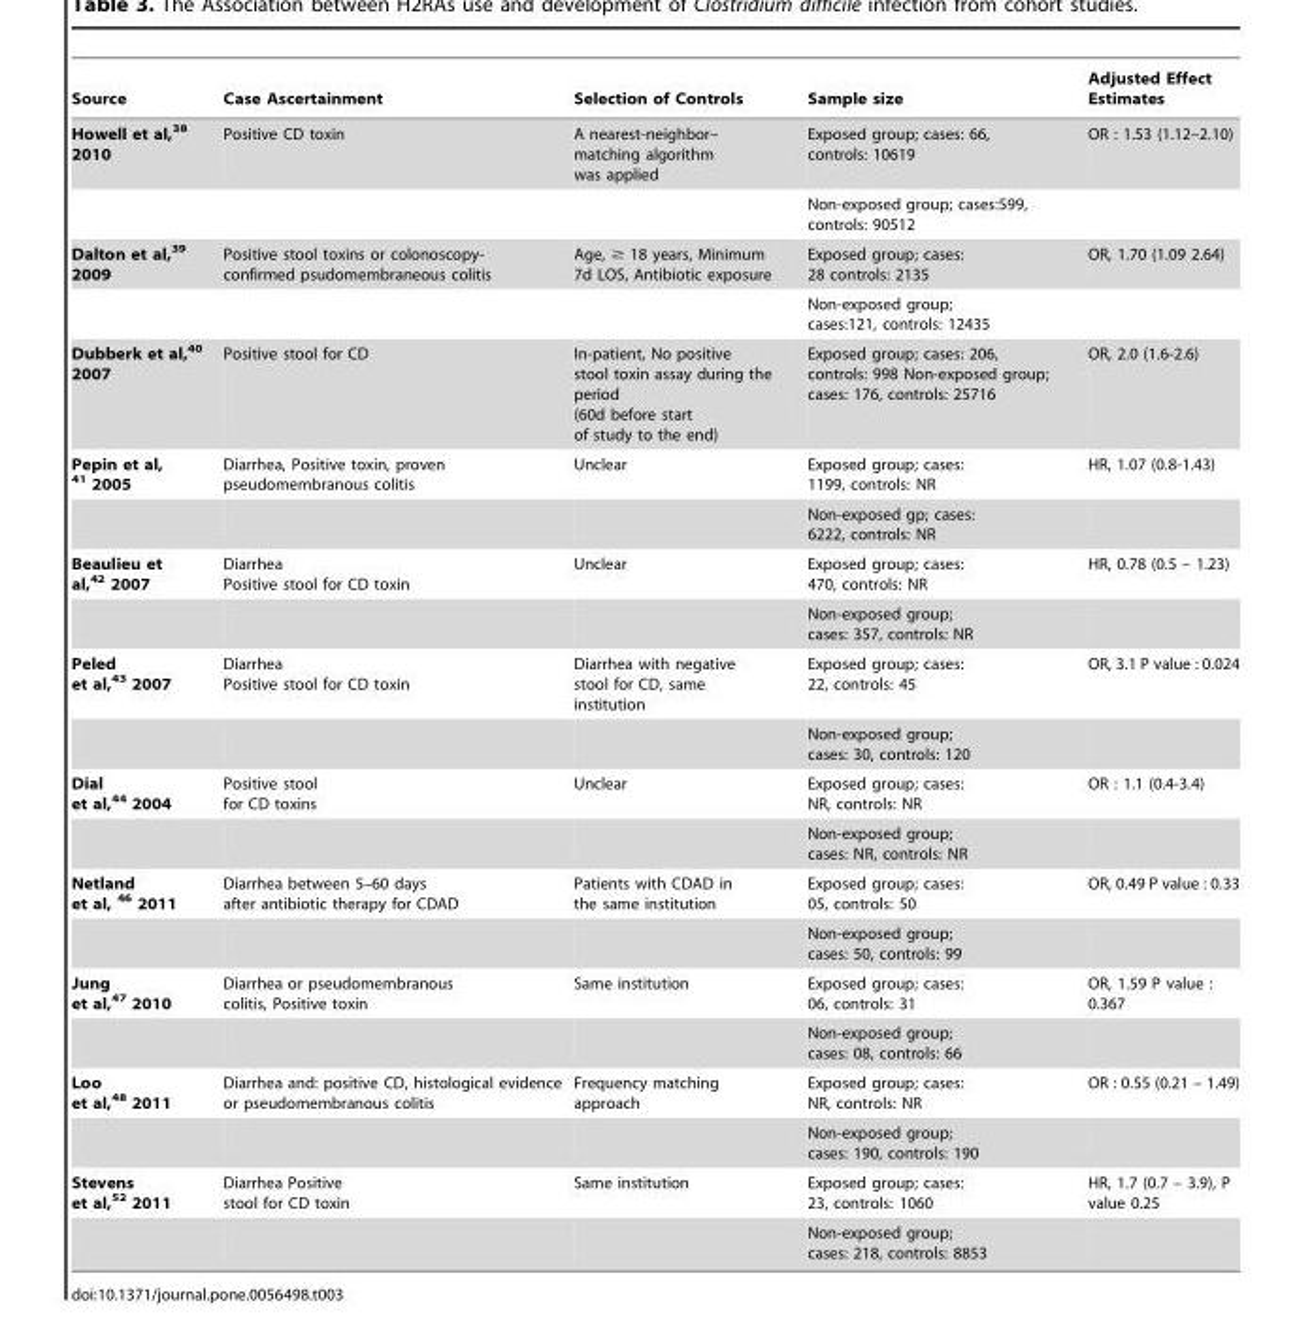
<table><thead><tr><td>Source</td><td>Case Ascertainment</td><td>Selection of Controls</td><td>Sample size</td><td>Adjusted Effect Estimates</td></tr></thead><tbody><tr><td rowspan="2">Howell et al,<sup>38</sup> 2010</td><td>Positive CD toxin</td><td>A nearest-neighbor– matching algorithm was applied</td><td>Exposed group; cases: 66, controls: 10619</td><td>OR : 1.53 (1.12–2.10)</td></tr><tr><td></td><td></td><td>Non-exposed group; cases:599, controls: 90512</td><td></td></tr><tr><td rowspan="2">Dalton et al,<sup>39</sup> 2009</td><td>Positive stool toxins or colonoscopy- confirmed psudomembraneous colitis</td><td>Age, ≥ 18 years, Minimum 7d LOS, Antibiotic exposure</td><td>Exposed group; cases: 28 controls: 2135</td><td>OR, 1.70 (1.09 2.64)</td></tr><tr><td></td><td></td><td>Non-exposed group; cases:121, controls: 12435</td><td></td></tr><tr><td>Dubberk et al,<sup>40</sup> 2007</td><td>Positive stool for CD</td><td>In-patient, No positive stool toxin assay during the period (60d before start of study to the end)</td><td>Exposed group; cases: 206, controls: 998 Non-exposed group; cases: 176, controls: 25716</td><td>OR, 2.0 (1.6-2.6)</td></tr><tr><td rowspan="2">Pepin et al, <sup>41</sup> 2005</td><td>Diarrhea, Positive toxin, proven pseudomembranous colitis</td><td>Unclear</td><td>Exposed group; cases: 1199, controls: NR</td><td>HR, 1.07 (0.8-1.43)</td></tr><tr><td></td><td></td><td>Non-exposed gp; cases: 6222, controls: NR</td><td></td></tr><tr><td rowspan="2">Beaulieu et al,<sup>42</sup> 2007</td><td>Diarrhea Positive stool for CD toxin</td><td>Unclear</td><td>Exposed group; cases: 470, controls: NR</td><td>HR, 0.78 (0.5 – 1.23)</td></tr><tr><td></td><td></td><td>Non-exposed group; cases: 357, controls: NR</td><td></td></tr><tr><td rowspan="2">Peled et al,<sup>43</sup> 2007</td><td>Diarrhea Positive stool for CD toxin</td><td>Diarrhea with negative stool for CD, same institution</td><td>Exposed group; cases: 22, controls: 45</td><td>OR, 3.1 P value : 0.024</td></tr><tr><td></td><td></td><td>Non-exposed group; cases: 30, controls: 120</td><td></td></tr><tr><td rowspan="2">Dial et al,<sup>44</sup> 2004</td><td>Positive stool for CD toxins</td><td>Unclear</td><td>Exposed group; cases: NR, controls: NR</td><td>OR : 1.1 (0.4-3.4)</td></tr><tr><td></td><td></td><td>Non-exposed group; cases: NR, controls: NR</td><td></td></tr><tr><td rowspan="2">Netland et al, <sup>46</sup> 2011</td><td>Diarrhea between 5–60 days after antibiotic therapy for CDAD</td><td>Patients with CDAD in the same institution</td><td>Exposed group; cases: 05, controls: 50</td><td>OR, 0.49 P value : 0.33</td></tr><tr><td></td><td></td><td>Non-exposed group; cases: 50, controls: 99</td><td></td></tr><tr><td rowspan="2">Jung et al,<sup>47</sup> 2010</td><td>Diarrhea or pseudomembranous colitis, Positive toxin</td><td>Same institution</td><td>Exposed group; cases: 06, controls: 31</td><td>OR, 1.59 P value : 0.367</td></tr><tr><td></td><td></td><td>Non-exposed group; cases: 08, controls: 66</td><td></td></tr><tr><td rowspan="2">Loo et al,<sup>48</sup> 2011</td><td>Diarrhea and: positive CD, histological evidence or pseudomembranous colitis</td><td>Frequency matching approach</td><td>Exposed group; cases: NR, controls: NR</td><td>OR : 0.55 (0.21 – 1.49)</td></tr><tr><td></td><td></td><td>Non-exposed group; cases: 190, controls: 190</td><td></td></tr><tr><td rowspan="2">Stevens et al,<sup>52</sup> 2011</td><td>Diarrhea Positive stool for CD toxin</td><td>Same institution</td><td>Exposed group; cases: 23, controls: 1060</td><td>HR, 1.7 (0.7 – 3.9), P value 0.25</td></tr><tr><td></td><td></td><td>Non-exposed group; cases: 218, controls: 8853</td><td></td></tr></tbody></table>